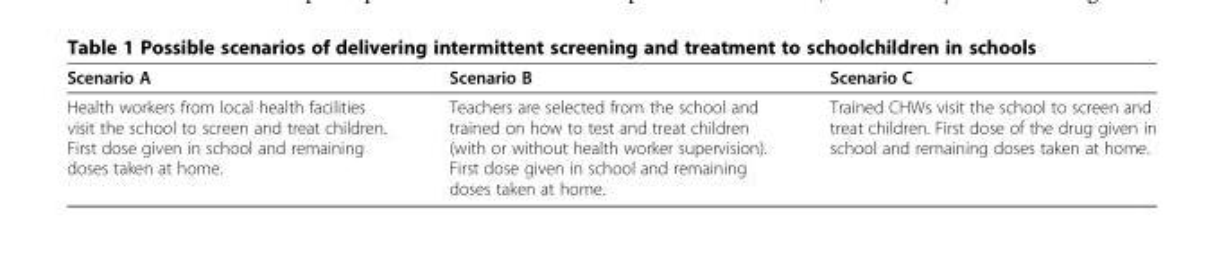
<table><thead><tr><td>Scenario A</td><td>Scenario B</td><td>Scenario C</td></tr></thead><tbody><tr><td>Health workers from local health facilities visit the school to screen and treat children. First dose given in school and remaining doses taken at home.</td><td>Teachers are selected from the school and trained on how to test and treat children (with or without health worker supervision). First dose given in school and remaining doses taken at home.</td><td>Trained CHWs visit the school to screen and treat children. First dose of the drug given in school and remaining doses taken at home.</td></tr></tbody></table>